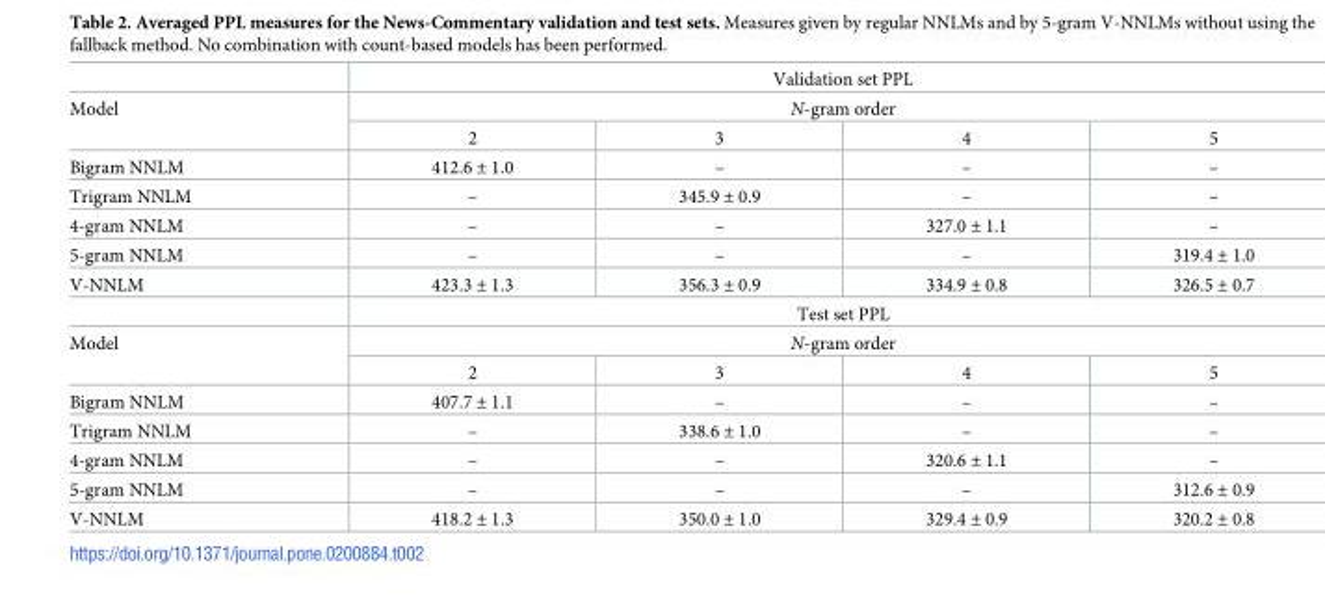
<table><thead><tr><td rowspan="3">Model</td><td rowspan="2" colspan="4">Validation set PPL N-gram order</td></tr><tr></tr><tr><td>2</td><td>3</td><td>4</td><td>5</td></tr></thead><tbody><tr><td>Bigram NNLM</td><td>412.6 ± 1.0</td><td>–</td><td>–</td><td>–</td></tr><tr><td>Trigram NNLM</td><td>–</td><td>345.9 ± 0.9</td><td>–</td><td>–</td></tr><tr><td>4-gram NNLM</td><td>–</td><td>–</td><td>327.0 ± 1.1</td><td>–</td></tr><tr><td>5-gram NNLM</td><td>–</td><td>–</td><td>–</td><td>319.4 ± 1.0</td></tr><tr><td rowspan="2">V-NNLM</td><td>423.3 ± 1.3</td><td>356.3 ± 0.9</td><td>334.9 ± 0.8</td><td>326.5 ± 0.7</td></tr><tr><td colspan="4">Test set PPL</td></tr><tr><td rowspan="2">Model</td><td colspan="4">N-gram order</td></tr><tr><td>2</td><td>3</td><td>4</td><td>5</td></tr><tr><td>Bigram NNLM</td><td>407.7 ± 1.1</td><td>–</td><td>–</td><td>–</td></tr><tr><td>Trigram NNLM</td><td>–</td><td>338.6 ± 1.0</td><td>–</td><td>–</td></tr><tr><td>4-gram NNLM</td><td>–</td><td>–</td><td>320.6 ± 1.1</td><td>–</td></tr><tr><td>5-gram NNLM</td><td>–</td><td>–</td><td>–</td><td>312.6 ± 0.9</td></tr><tr><td>V-NNLM</td><td>418.2 ± 1.3</td><td>350.0 ± 1.0</td><td>329.4 ± 0.9</td><td>320.2 ± 0.8</td></tr></tbody></table>